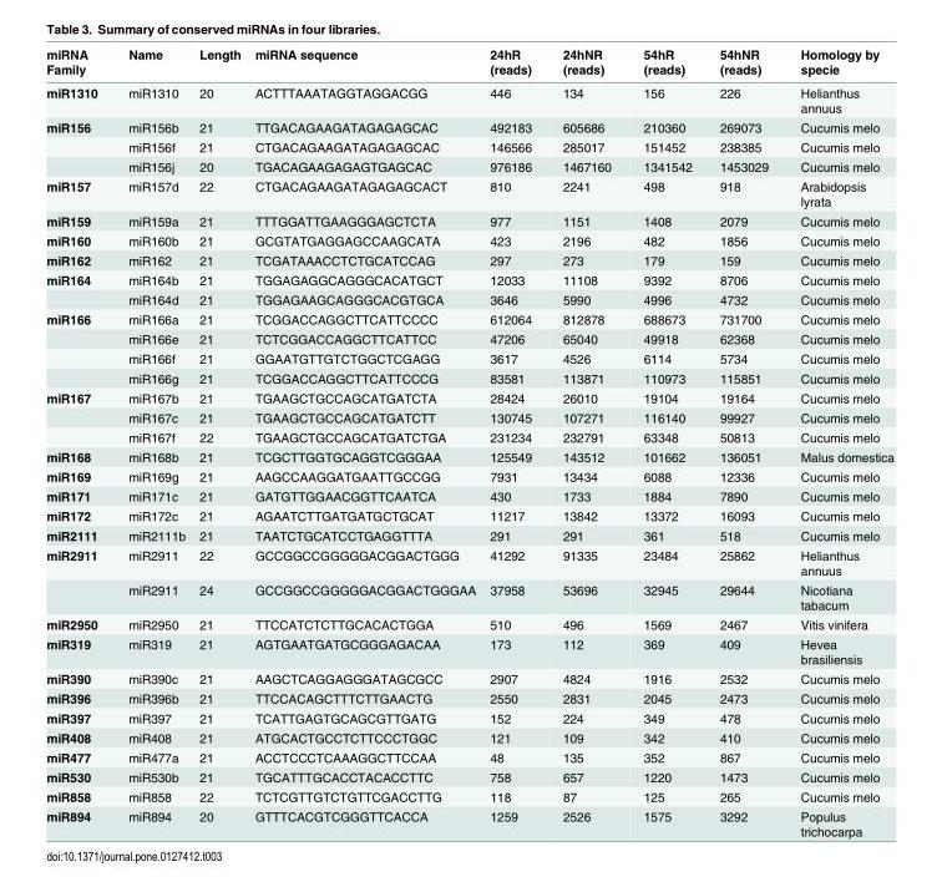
<table><thead><tr><td>miRNA Family</td><td>Name</td><td>Length</td><td>miRNA sequence</td><td>24hR (reads)</td><td>24hNR (reads)</td><td>54hR (reads)</td><td>54hNR (reads)</td><td>Homology by specie</td></tr></thead><tbody><tr><td>miR1310</td><td>miR1310</td><td>20</td><td>ACTTTAAATAGGTAGGACGG</td><td>446</td><td>134</td><td>156</td><td>226</td><td>Helianthus annuus</td></tr><tr><td rowspan="3">miR156</td><td>miR156b</td><td>21</td><td>TTGACAGAAGATAGAGAGCAC</td><td>492183</td><td>605686</td><td>210360</td><td>269073</td><td>Cucumis melo</td></tr><tr><td>miR156f</td><td>21</td><td>CTGACAGAAGATAGAGAGCAC</td><td>146566</td><td>285017</td><td>151452</td><td>238385</td><td>Cucumis melo</td></tr><tr><td>miR156j</td><td>20</td><td>TGACAGAAGAGAGTGAGCAC</td><td>976186</td><td>1467160</td><td>1341542</td><td>1453029</td><td>Cucumis melo</td></tr><tr><td>miR157</td><td>miR157d</td><td>22</td><td>CTGACAGAAGATAGAGAGCACT</td><td>810</td><td>2241</td><td>498</td><td>918</td><td>Arabidopsis lyrata</td></tr><tr><td>miR159</td><td>miR159a</td><td>21</td><td>TTTGGATTGAAGGGAGCTCTA</td><td>977</td><td>1151</td><td>1408</td><td>2079</td><td>Cucumis melo</td></tr><tr><td>miR160</td><td>miR160b</td><td>21</td><td>GCGTATGAGGAGCCAAGCATA</td><td>423</td><td>2196</td><td>482</td><td>1856</td><td>Cucumis melo</td></tr><tr><td>miR162</td><td>miR162</td><td>21</td><td>TCGATAAACCTCTGCATCCAG</td><td>297</td><td>273</td><td>179</td><td>159</td><td>Cucumis melo</td></tr><tr><td rowspan="2">miR164</td><td>miR164b</td><td>21</td><td>TGGAGAGGCAGGGCACATGCT</td><td>12033</td><td>11108</td><td>9392</td><td>8706</td><td>Cucumis melo</td></tr><tr><td>miR164d</td><td>21</td><td>TGGAGAAGCAGGGCACGTGCA</td><td>3646</td><td>5990</td><td>4996</td><td>4732</td><td>Cucumis melo</td></tr><tr><td rowspan="4">miR166</td><td>miR166a</td><td>21</td><td>TCGGACCAGGCTTCATTCCCC</td><td>612064</td><td>812878</td><td>688673</td><td>731700</td><td>Cucumis melo</td></tr><tr><td>miR166e</td><td>21</td><td>TCTCGGACCAGGCTTCATTCC</td><td>47206</td><td>65040</td><td>49918</td><td>62368</td><td>Cucumis melo</td></tr><tr><td>miR166f</td><td>21</td><td>GGAATGTTGTCTGGCTCGAGG</td><td>3617</td><td>4526</td><td>6114</td><td>5734</td><td>Cucumis melo</td></tr><tr><td>miR166g</td><td>21</td><td>TCGGACCAGGCTTCATTCCCG</td><td>83581</td><td>113871</td><td>110973</td><td>115851</td><td>Cucumis melo</td></tr><tr><td rowspan="3">miR167</td><td>miR167b</td><td>21</td><td>TGAAGCTGCCAGCATGATCTA</td><td>28424</td><td>26010</td><td>19104</td><td>19164</td><td>Cucumis melo</td></tr><tr><td>miR167c</td><td>21</td><td>TGAAGCTGCCAGCATGATCTT</td><td>130745</td><td>107271</td><td>116140</td><td>99927</td><td>Cucumis melo</td></tr><tr><td>miR167f</td><td>22</td><td>TGAAGCTGCCAGCATGATCTGA</td><td>231234</td><td>232791</td><td>63348</td><td>50813</td><td>Cucumis melo</td></tr><tr><td>miR168</td><td>miR168b</td><td>21</td><td>TCGCTTGGTGCAGGTCGGGAA</td><td>125549</td><td>143512</td><td>101662</td><td>136051</td><td>Malus domestica</td></tr><tr><td>miR169</td><td>miR169g</td><td>21</td><td>AAGCCAAGGATGAATTGCCGG</td><td>7931</td><td>13434</td><td>6088</td><td>12336</td><td>Cucumis melo</td></tr><tr><td>miR171</td><td>miR171c</td><td>21</td><td>GATGTTGGAACGGTTCAATCA</td><td>430</td><td>1733</td><td>1884</td><td>7890</td><td>Cucumis melo</td></tr><tr><td>miR172</td><td>miR172c</td><td>21</td><td>AGAATCTTGATGATGCTGCAT</td><td>11217</td><td>13842</td><td>13372</td><td>16093</td><td>Cucumis melo</td></tr><tr><td>miR2111</td><td>miR2111b</td><td>21</td><td>TAATCTGCATCCTGAGGTTTA</td><td>291</td><td>291</td><td>361</td><td>518</td><td>Cucumis melo</td></tr><tr><td rowspan="2">miR2911</td><td>miR2911</td><td>22</td><td>GCCGGCCGGGGGACGGACTGGG</td><td>41292</td><td>91335</td><td>23484</td><td>25862</td><td>Helianthus annuus</td></tr><tr><td>miR2911</td><td>24</td><td>GCCGGCCGGGGGACGGACTGGGAA</td><td>37958</td><td>53696</td><td>32945</td><td>29644</td><td>Nicotiana tabacum</td></tr><tr><td>miR2950</td><td>miR2950</td><td>21</td><td>TTCCATCTCTTGCACACTGGA</td><td>510</td><td>496</td><td>1569</td><td>2467</td><td>Vitis vinifera</td></tr><tr><td>miR319</td><td>miR319</td><td>21</td><td>AGTGAATGATGCGGGAGACAA</td><td>173</td><td>112</td><td>369</td><td>409</td><td>Hevea brasiliensis</td></tr><tr><td>miR390</td><td>miR390c</td><td>21</td><td>AAGCTCAGGAGGGATAGCGCC</td><td>2907</td><td>4824</td><td>1916</td><td>2532</td><td>Cucumis melo</td></tr><tr><td>miR396</td><td>miR396b</td><td>21</td><td>TTCCACAGCTTTCTTGAACTG</td><td>2550</td><td>2831</td><td>2045</td><td>2473</td><td>Cucumis melo</td></tr><tr><td>miR397</td><td>miR397</td><td>21</td><td>TCATTGAGTGCAGCGTTGATG</td><td>152</td><td>224</td><td>349</td><td>478</td><td>Cucumis melo</td></tr><tr><td>miR408</td><td>miR408</td><td>21</td><td>ATGCACTGCCTCTTCCCTGGC</td><td>121</td><td>109</td><td>342</td><td>410</td><td>Cucumis melo</td></tr><tr><td>miR477</td><td>miR477a</td><td>21</td><td>ACCTCCCTCAAAGGCTTCCAA</td><td>48</td><td>135</td><td>352</td><td>867</td><td>Cucumis melo</td></tr><tr><td>miR530</td><td>miR530b</td><td>21</td><td>TGCATTTGCACCTACACCTTC</td><td>758</td><td>657</td><td>1220</td><td>1473</td><td>Cucumis melo</td></tr><tr><td>miR858</td><td>miR858</td><td>22</td><td>TCTCGTTGTCTGTTCGACCTTG</td><td>118</td><td>87</td><td>125</td><td>265</td><td>Cucumis melo</td></tr><tr><td>miR894</td><td>miR894</td><td>20</td><td>GTTTCACGTCGGGTTCACCA</td><td>1259</td><td>2526</td><td>1575</td><td>3292</td><td>Populus trichocarpa</td></tr></tbody></table>